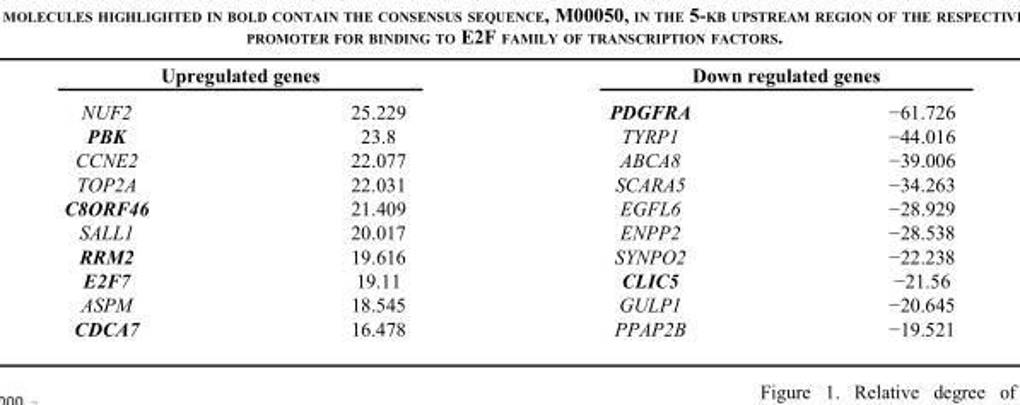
<table><thead><tr><td colspan="2">Upregulated genes</td><td colspan="2">Down regulated genes</td></tr><tr><td>NUF2</td><td>25.229</td><td>PDGFRA</td><td>−61.726</td></tr></thead><tbody><tr><td>PBK</td><td>23.8</td><td>TYRP1</td><td>−44.016</td></tr><tr><td>CCNE2</td><td>22.077</td><td>ABCA8</td><td>−39.006</td></tr><tr><td>TOP2A</td><td>22.031</td><td>SCARA5</td><td>−34.263</td></tr><tr><td>C8ORF46</td><td>21.409</td><td>EGFL6</td><td>−28.929</td></tr><tr><td>SALL1</td><td>20.017</td><td>ENPP2</td><td>−28.538</td></tr><tr><td>RRM2</td><td>19.616</td><td>SYNPO2</td><td>−22.238</td></tr><tr><td>E2F7</td><td>19.11</td><td>CLIC5</td><td>−21.56</td></tr><tr><td>ASPM</td><td>18.545</td><td>GULP1</td><td>−20.645</td></tr><tr><td>CDCA7</td><td>16.478</td><td>PPAP2B</td><td>−19.521</td></tr></tbody></table>